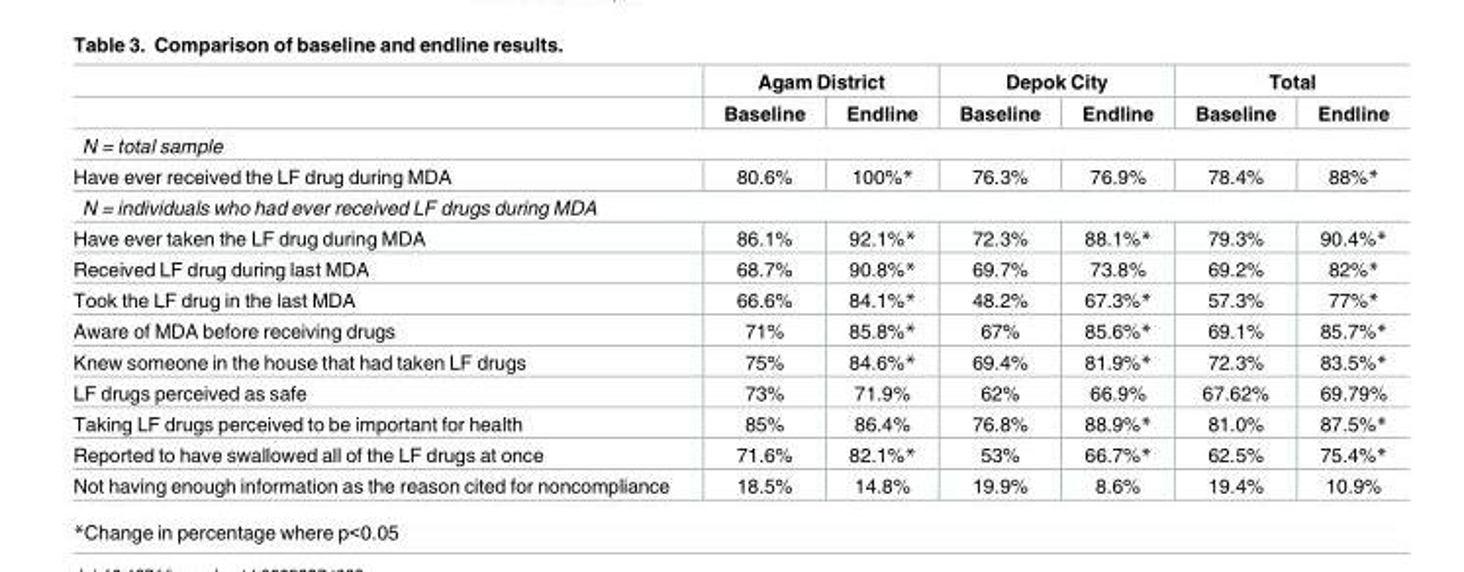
<table><thead><tr><td rowspan="2"></td><td colspan="2">Agam District</td><td colspan="2">Depok City</td><td colspan="2">Total</td></tr><tr><td>Baseline</td><td>Endline</td><td>Baseline</td><td>Endline</td><td>Baseline</td><td>Endline</td></tr></thead><tbody><tr><td colspan="7">N = total sample</td></tr><tr><td>Have ever received the LF drug during MDA</td><td>80.6%</td><td>100%*</td><td>76.3%</td><td>76.9%</td><td>78.4%</td><td>88%*</td></tr><tr><td colspan="7">N = individuals who had ever received LF drugs during MDA</td></tr><tr><td>Have ever taken the LF drug during MDA</td><td>86.1%</td><td>92.1%*</td><td>72.3%</td><td>88.1%*</td><td>79.3%</td><td>90.4%*</td></tr><tr><td>Received LF drug during last MDA</td><td>68.7%</td><td>90.8%*</td><td>69.7%</td><td>73.8%</td><td>69.2%</td><td>82%*</td></tr><tr><td>Took the LF drug in the last MDA</td><td>66.6%</td><td>84.1%*</td><td>48.2%</td><td>67.3%*</td><td>57.3%</td><td>77%*</td></tr><tr><td>Aware of MDA before receiving drugs</td><td>71%</td><td>85.8%*</td><td>67%</td><td>85.6%*</td><td>69.1%</td><td>85.7%*</td></tr><tr><td>Knew someone in the house that had taken LF drugs</td><td>75%</td><td>84.6%*</td><td>69.4%</td><td>81.9%*</td><td>72.3%</td><td>83.5%*</td></tr><tr><td>LF drugs perceived as safe</td><td>73%</td><td>71.9%</td><td>62%</td><td>66.9%</td><td>67.62%</td><td>69.79%</td></tr><tr><td>Taking LF drugs perceived to be important for health</td><td>85%</td><td>86.4%</td><td>76.8%</td><td>88.9%*</td><td>81.0%</td><td>87.5%*</td></tr><tr><td>Reported to have swallowed all of the LF drugs at once</td><td>71.6%</td><td>82.1%*</td><td>53%</td><td>66.7%*</td><td>62.5%</td><td>75.4%*</td></tr><tr><td>Not having enough information as the reason cited for noncompliance</td><td>18.5%</td><td>14.8%</td><td>19.9%</td><td>8.6%</td><td>19.4%</td><td>10.9%</td></tr></tbody></table>